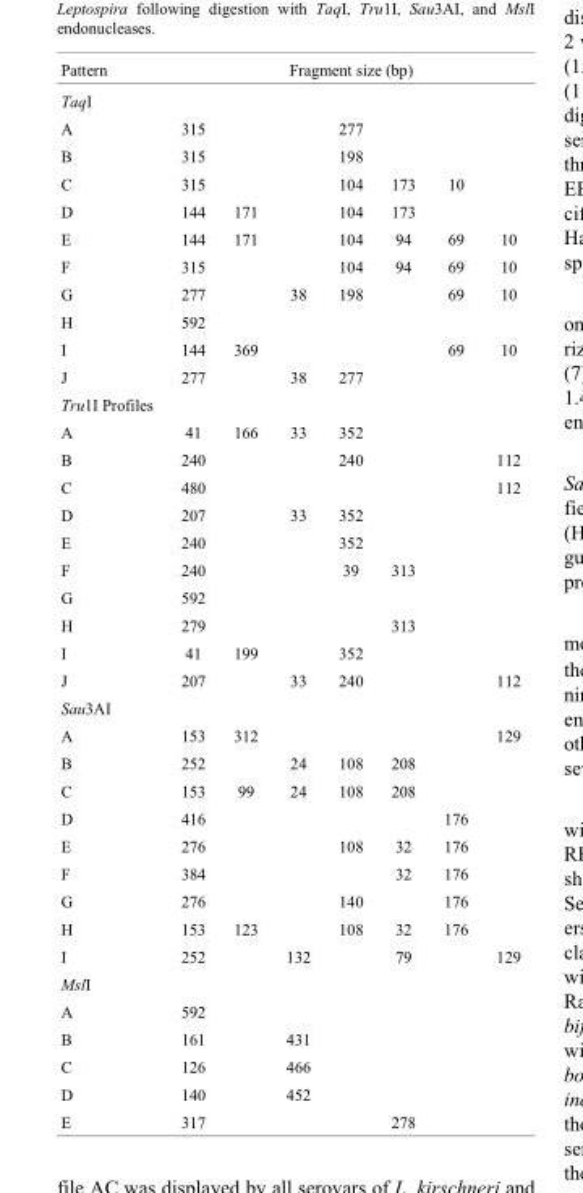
<table><thead><tr><td>Pattern</td><td colspan="7">Fragment size (bp)</td></tr><tr><td colspan="8">TaqI</td></tr><tr><td>A</td><td>315</td><td></td><td></td><td>277</td><td></td><td></td><td></td></tr></thead><tbody><tr><td>B</td><td>315</td><td></td><td></td><td>198</td><td></td><td></td><td></td></tr><tr><td>C</td><td>315</td><td></td><td></td><td>104</td><td>173</td><td>10</td><td></td></tr><tr><td>D</td><td>144</td><td>171</td><td></td><td>104</td><td>173</td><td></td><td></td></tr><tr><td>E</td><td>144</td><td>171</td><td></td><td>104</td><td>94</td><td>69</td><td>10</td></tr><tr><td>F</td><td>315</td><td></td><td></td><td>104</td><td>94</td><td>69</td><td>10</td></tr><tr><td>G</td><td>277</td><td></td><td>38</td><td>198</td><td></td><td>69</td><td>10</td></tr><tr><td>H</td><td>592</td><td></td><td></td><td></td><td></td><td></td><td></td></tr><tr><td>I</td><td>144</td><td>369</td><td></td><td></td><td></td><td>69</td><td>10</td></tr><tr><td>J</td><td>277</td><td></td><td>38</td><td>277</td><td></td><td></td><td></td></tr><tr><td colspan="8">Tru1I Profiles</td></tr><tr><td>A</td><td>41</td><td>166</td><td>33</td><td>352</td><td></td><td></td><td></td></tr><tr><td>B</td><td>240</td><td></td><td></td><td>240</td><td></td><td></td><td>112</td></tr><tr><td>C</td><td>480</td><td></td><td></td><td></td><td></td><td></td><td>112</td></tr><tr><td>D</td><td>207</td><td></td><td>33</td><td>352</td><td></td><td></td><td></td></tr><tr><td>E</td><td>240</td><td></td><td></td><td>352</td><td></td><td></td><td></td></tr><tr><td>F</td><td>240</td><td></td><td></td><td>39</td><td>313</td><td></td><td></td></tr><tr><td>G</td><td>592</td><td></td><td></td><td></td><td></td><td></td><td></td></tr><tr><td>H</td><td>279</td><td></td><td></td><td></td><td>313</td><td></td><td></td></tr><tr><td>I</td><td>41</td><td>199</td><td></td><td>352</td><td></td><td></td><td></td></tr><tr><td>J</td><td>207</td><td></td><td>33</td><td>240</td><td></td><td></td><td>112</td></tr><tr><td colspan="8">Sau3AI</td></tr><tr><td>A</td><td>153</td><td>312</td><td></td><td></td><td></td><td></td><td>129</td></tr><tr><td>B</td><td>252</td><td></td><td>24</td><td>108</td><td>208</td><td></td><td></td></tr><tr><td>C</td><td>153</td><td>99</td><td>24</td><td>108</td><td>208</td><td></td><td></td></tr><tr><td>D</td><td>416</td><td></td><td></td><td></td><td></td><td>176</td><td></td></tr><tr><td>E</td><td>276</td><td></td><td></td><td>108</td><td>32</td><td>176</td><td></td></tr><tr><td>F</td><td>384</td><td></td><td></td><td></td><td>32</td><td>176</td><td></td></tr><tr><td>G</td><td>276</td><td></td><td></td><td>140</td><td></td><td>176</td><td></td></tr><tr><td>H</td><td>153</td><td>123</td><td></td><td>108</td><td>32</td><td>176</td><td></td></tr><tr><td>I</td><td>252</td><td></td><td>132</td><td></td><td>79</td><td></td><td>129</td></tr><tr><td colspan="8">MslI</td></tr><tr><td>A</td><td>592</td><td></td><td></td><td></td><td></td><td></td><td></td></tr><tr><td>B</td><td>161</td><td></td><td>431</td><td></td><td></td><td></td><td></td></tr><tr><td>C</td><td>126</td><td></td><td>466</td><td></td><td></td><td></td><td></td></tr><tr><td>D</td><td>140</td><td></td><td>452</td><td></td><td></td><td></td><td></td></tr><tr><td>E</td><td>317</td><td></td><td></td><td></td><td>278</td><td></td><td></td></tr></tbody></table>